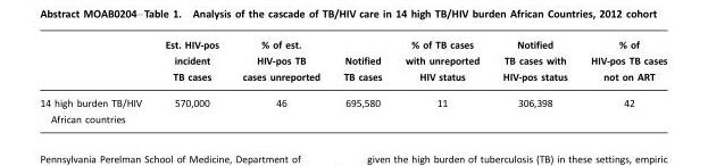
<table><thead><tr><td></td><td>Est. HIV-pos incident TB cases</td><td>% of est. HIV-pos TB cases unreported</td><td>Notified TB cases</td><td>% of TB cases with unreported HIV status</td><td>Notified TB cases with HIV-pos status</td><td>% of HIV-pos TB cases not on ART</td></tr></thead><tbody><tr><td>14 high burden TB/HIV African countries</td><td>570,000</td><td>46</td><td>695,580</td><td>11</td><td>306,398</td><td>42</td></tr></tbody></table>